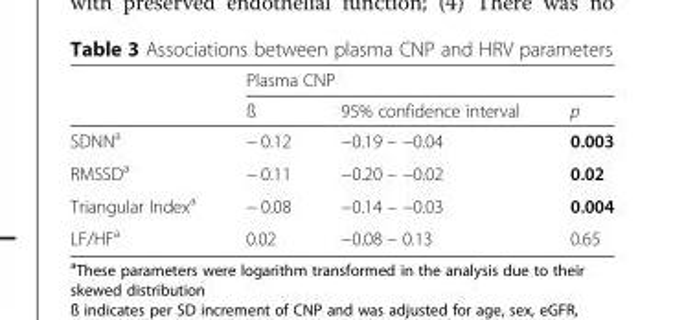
<table><thead><tr><td rowspan="2"></td><td colspan="3">Plasma CNP</td></tr><tr><td>ß</td><td>95% confidence interval</td><td>p</td></tr></thead><tbody><tr><td>SDNN<sup>a</sup></td><td>− 0.12</td><td>−0.19 – −0.04</td><td>0.003</td></tr><tr><td>RMSSD<sup>a</sup></td><td>− 0.11</td><td>−0.20 – −0.02</td><td>0.02</td></tr><tr><td>Triangular Index<sup>a</sup></td><td>− 0.08</td><td>−0.14 – −0.03</td><td>0.004</td></tr><tr><td>LF/HF<sup>a</sup></td><td>0.02</td><td>−0.08 – 0.13</td><td>0.65</td></tr></tbody></table>